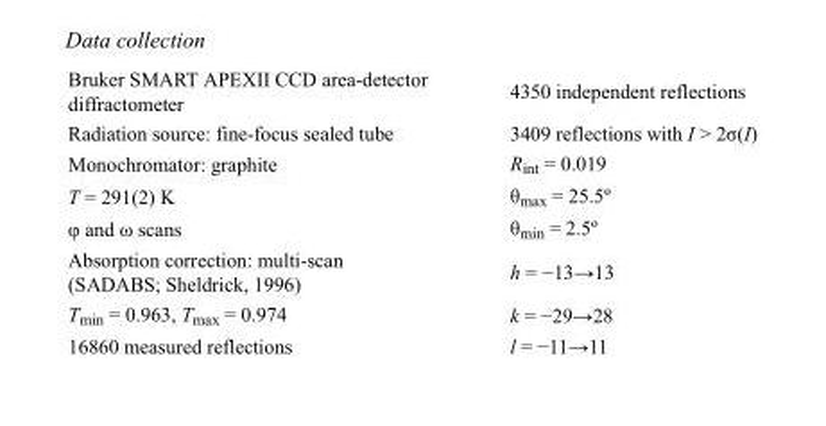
<table><tbody><tr><td>Bruker SMART APEXII CCD area-detector diffractometer</td><td>4350 independent reflections</td></tr><tr><td>Radiation source: fine-focus sealed tube</td><td>3409 reflections with I &gt; 2σ(I)</td></tr><tr><td>Monochromator: graphite</td><td>R<sub>int</sub> = 0.019</td></tr><tr><td>T = 291(2) K</td><td>θ<sub>max</sub> = 25.5º</td></tr><tr><td>φ and ω scans</td><td>θ<sub>min</sub> = 2.5º</td></tr><tr><td>Absorption correction: multi-scan (SADABS; Sheldrick, 1996)</td><td>h = −13→13</td></tr><tr><td>T<sub>min</sub> = 0.963, T<sub>max</sub> = 0.974</td><td>k = −29→28</td></tr><tr><td>16860 measured reflections</td><td>l = −11→11</td></tr></tbody></table>